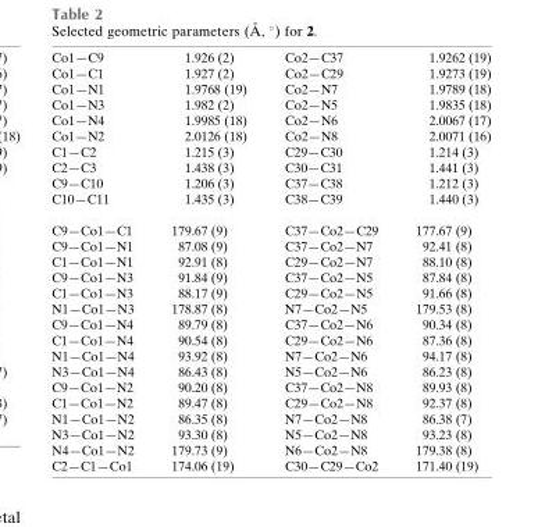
<table><tbody><tr><td>Co1—C9</td><td>1.926 (2)</td><td>Co2—C37</td><td>1.9262 (19)</td></tr><tr><td>Co1—C1</td><td>1.927 (2)</td><td>Co2—C29</td><td>1.9273 (19)</td></tr><tr><td>Co1—N1</td><td>1.9768 (19)</td><td>Co2—N7</td><td>1.9789 (18)</td></tr><tr><td>Co1—N3</td><td>1.982 (2)</td><td>Co2—N5</td><td>1.9835 (18)</td></tr><tr><td>Co1—N4</td><td>1.9985 (18)</td><td>Co2—N6</td><td>2.0067 (17)</td></tr><tr><td>Co1—N2</td><td>2.0126 (18)</td><td>Co2—N8</td><td>2.0071 (16)</td></tr><tr><td>C1—C2</td><td>1.215 (3)</td><td>C29—C30</td><td>1.214 (3)</td></tr><tr><td>C2—C3</td><td>1.438 (3)</td><td>C30—C31</td><td>1.441 (3)</td></tr><tr><td>C9—C10</td><td>1.206 (3)</td><td>C37—C38</td><td>1.212 (3)</td></tr><tr><td>C10—C11</td><td>1.435 (3)</td><td>C38—C39</td><td>1.440 (3)</td></tr><tr><td>C9—Co1—C1</td><td>179.67 (9)</td><td>C37—Co2—C29</td><td>177.67 (9)</td></tr><tr><td>C9—Co1—N1</td><td>87.08 (9)</td><td>C37—Co2—N7</td><td>92.41 (8)</td></tr><tr><td>C1—Co1—N1</td><td>92.91 (8)</td><td>C29—Co2—N7</td><td>88.10 (8)</td></tr><tr><td>C9—Co1—N3</td><td>91.84 (9)</td><td>C37—Co2—N5</td><td>87.84 (8)</td></tr><tr><td>C1—Co1—N3</td><td>88.17 (9)</td><td>C29—Co2—N5</td><td>91.66 (8)</td></tr><tr><td>N1—Co1—N3</td><td>178.87 (8)</td><td>N7—Co2—N5</td><td>179.53 (8)</td></tr><tr><td>C9—Co1—N4</td><td>89.79 (8)</td><td>C37—Co2—N6</td><td>90.34 (8)</td></tr><tr><td>C1—Co1—N4</td><td>90.54 (8)</td><td>C29—Co2—N6</td><td>87.36 (8)</td></tr><tr><td>N1—Co1—N4</td><td>93.92 (8)</td><td>N7—Co2—N6</td><td>94.17 (8)</td></tr><tr><td>N3—Co1—N4</td><td>86.43 (8)</td><td>N5—Co2—N6</td><td>86.23 (8)</td></tr><tr><td>C9—Co1—N2</td><td>90.20 (8)</td><td>C37—Co2—N8</td><td>89.93 (8)</td></tr><tr><td>C1—Co1—N2</td><td>89.47 (8)</td><td>C29—Co2—N8</td><td>92.37 (8)</td></tr><tr><td>N1—Co1—N2</td><td>86.35 (8)</td><td>N7—Co2—N8</td><td>86.38 (7)</td></tr><tr><td>N3—Co1—N2</td><td>93.30 (8)</td><td>N5—Co2—N8</td><td>93.23 (8)</td></tr><tr><td>N4—Co1—N2</td><td>179.73 (9)</td><td>N6—Co2—N8</td><td>179.38 (8)</td></tr><tr><td>C2—C1—Co1</td><td>174.06 (19)</td><td>C30—C29—Co2</td><td>171.40 (19)</td></tr></tbody></table>